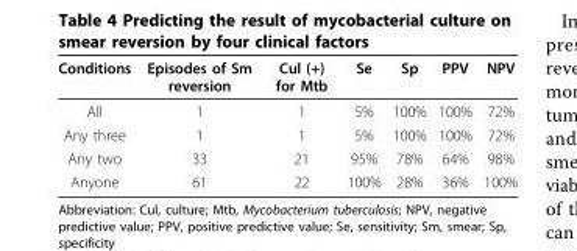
<table><thead><tr><td>Conditions</td><td>Episodes of Sm reversion</td><td>Cul (+) for Mtb</td><td>Se</td><td>Sp</td><td>PPV</td><td>NPV</td></tr></thead><tbody><tr><td>All</td><td>1</td><td>1</td><td>5%</td><td>100%</td><td>100%</td><td>72%</td></tr><tr><td>Any three</td><td>1</td><td>1</td><td>5%</td><td>100%</td><td>100%</td><td>72%</td></tr><tr><td>Any two</td><td>33</td><td>21</td><td>95%</td><td>78%</td><td>64%</td><td>98%</td></tr><tr><td>Anyone</td><td>61</td><td>22</td><td>100%</td><td>28%</td><td>36%</td><td>100%</td></tr></tbody></table>